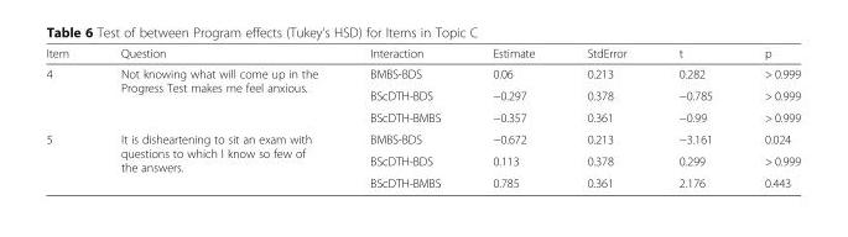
<table><thead><tr><td>Item</td><td>Question</td><td>Interaction</td><td>Estimate</td><td>StdError</td><td>t</td><td>p</td></tr></thead><tbody><tr><td rowspan="3">4</td><td rowspan="3">Not knowing what will come up in the Progress Test makes me feel anxious.</td><td>BMBS-BDS</td><td>0.06</td><td>0.213</td><td>0.282</td><td>&gt; 0.999</td></tr><tr><td>BScDTH-BDS</td><td>−0.297</td><td>0.378</td><td>−0.785</td><td>&gt; 0.999</td></tr><tr><td>BScDTH-BMBS</td><td>−0.357</td><td>0.361</td><td>−0.99</td><td>&gt; 0.999</td></tr><tr><td rowspan="3">5</td><td rowspan="3">It is disheartening to sit an exam with questions to which I know so few of the answers.</td><td>BMBS-BDS</td><td>−0.672</td><td>0.213</td><td>−3.161</td><td>0.024</td></tr><tr><td>BScDTH-BDS</td><td>0.113</td><td>0.378</td><td>0.299</td><td>&gt; 0.999</td></tr><tr><td>BScDTH-BMBS</td><td>0.785</td><td>0.361</td><td>2.176</td><td>0.443</td></tr></tbody></table>